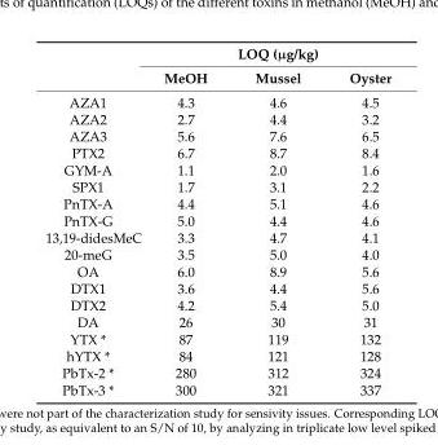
<table><thead><tr><td rowspan="2"></td><td colspan="3">LOQ (µg/kg)</td></tr><tr><td>MeOH</td><td>Mussel</td><td>Oyster</td></tr></thead><tbody><tr><td>AZA1</td><td>4.3</td><td>4.6</td><td>4.5</td></tr><tr><td>AZA2</td><td>2.7</td><td>4.4</td><td>3.2</td></tr><tr><td>AZA3</td><td>5.6</td><td>7.6</td><td>6.5</td></tr><tr><td>PTX2</td><td>6.7</td><td>8.7</td><td>8.4</td></tr><tr><td>GYM-A</td><td>1.1</td><td>2.0</td><td>1.6</td></tr><tr><td>SPX1</td><td>1.7</td><td>3.1</td><td>2.2</td></tr><tr><td>PnTX-A</td><td>4.4</td><td>5.1</td><td>4.6</td></tr><tr><td>PnTX-G</td><td>5.0</td><td>4.4</td><td>4.6</td></tr><tr><td>13,19-didesMeC</td><td>3.3</td><td>4.7</td><td>4.1</td></tr><tr><td>20-meG</td><td>3.5</td><td>5.0</td><td>4.0</td></tr><tr><td>OA</td><td>6.0</td><td>8.9</td><td>5.6</td></tr><tr><td>DTX1</td><td>3.6</td><td>4.4</td><td>5.6</td></tr><tr><td>DTX2</td><td>4.2</td><td>5.4</td><td>5.0</td></tr><tr><td>DA</td><td>26</td><td>30</td><td>31</td></tr><tr><td>YTX *</td><td>87</td><td>119</td><td>132</td></tr><tr><td>hYTX *</td><td>84</td><td>121</td><td>128</td></tr><tr><td>PbTx-2 *</td><td>280</td><td>312</td><td>324</td></tr><tr><td>PbTx-3 *</td><td>300</td><td>321</td><td>337</td></tr></tbody></table>